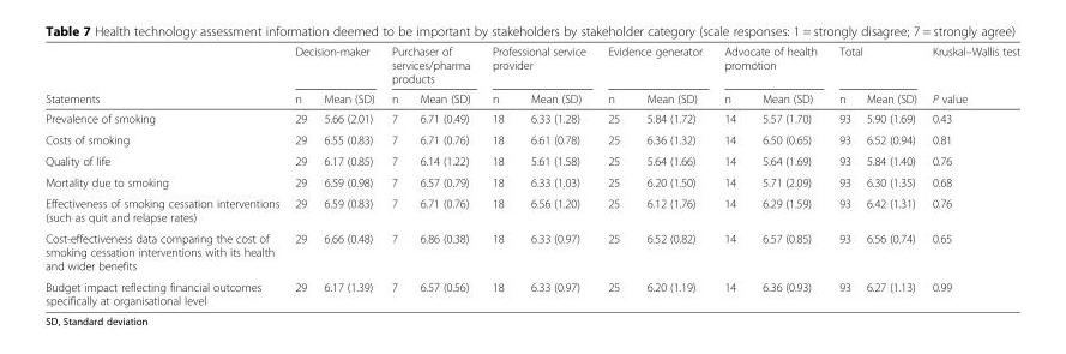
<table><thead><tr><td rowspan="2">Statements</td><td colspan="2">Decision-maker</td><td colspan="2">Purchaser of services/pharma products</td><td colspan="2">Professional service provider</td><td colspan="2">Evidence generator</td><td colspan="2">Advocate of health promotion</td><td colspan="2">Total</td><td rowspan="2">Kruskal–Wallis test P value</td></tr><tr><td>n</td><td>Mean (SD)</td><td>n</td><td>Mean (SD)</td><td>n</td><td>Mean (SD)</td><td>n</td><td>Mean (SD)</td><td>n</td><td>Mean (SD)</td><td>n</td><td>Mean (SD)</td></tr></thead><tbody><tr><td>Prevalence of smoking</td><td>29</td><td>5.66 (2.01)</td><td>7</td><td>6.71 (0.49)</td><td>18</td><td>6.33 (1.28)</td><td>25</td><td>5.84 (1.72)</td><td>14</td><td>5.57 (1.70)</td><td>93</td><td>5.90 (1.69)</td><td>0.43</td></tr><tr><td>Costs of smoking</td><td>29</td><td>6.55 (0.83)</td><td>7</td><td>6.71 (0.76)</td><td>18</td><td>6.61 (0.78)</td><td>25</td><td>6.36 (1.32)</td><td>14</td><td>6.50 (0.65)</td><td>93</td><td>6.52 (0.94)</td><td>0.81</td></tr><tr><td>Quality of life</td><td>29</td><td>6.17 (0.85)</td><td>7</td><td>6.14 (1.22)</td><td>18</td><td>5.61 (1.58)</td><td>25</td><td>5.64 (1.66)</td><td>14</td><td>5.64 (1.69)</td><td>93</td><td>5.84 (1.40)</td><td>0.76</td></tr><tr><td>Mortality due to smoking</td><td>29</td><td>6.59 (0.98)</td><td>7</td><td>6.57 (0.79)</td><td>18</td><td>6.33 (1.03)</td><td>25</td><td>6.20 (1.50)</td><td>14</td><td>5.71 (2.09)</td><td>93</td><td>6.30 (1.35)</td><td>0.68</td></tr><tr><td>Effectiveness of smoking cessation interventions (such as quit and relapse rates)</td><td>29</td><td>6.59 (0.83)</td><td>7</td><td>6.71 (0.76)</td><td>18</td><td>6.56 (1.20)</td><td>25</td><td>6.12 (1.76)</td><td>14</td><td>6.29 (1.59)</td><td>93</td><td>6.42 (1.31)</td><td>0.76</td></tr><tr><td>Cost-effectiveness data comparing the cost of smoking cessation interventions with its health and wider benefits</td><td>29</td><td>6.66 (0.48)</td><td>7</td><td>6.86 (0.38)</td><td>18</td><td>6.33 (0.97)</td><td>25</td><td>6.52 (0.82)</td><td>14</td><td>6.57 (0.85)</td><td>93</td><td>6.56 (0.74)</td><td>0.65</td></tr><tr><td>Budget impact reflecting financial outcomes specifically at organisational level</td><td>29</td><td>6.17 (1.39)</td><td>7</td><td>6.57 (0.56)</td><td>18</td><td>6.33 (0.97)</td><td>25</td><td>6.20 (1.19)</td><td>14</td><td>6.36 (0.93)</td><td>93</td><td>6.27 (1.13)</td><td>0.99</td></tr></tbody></table>